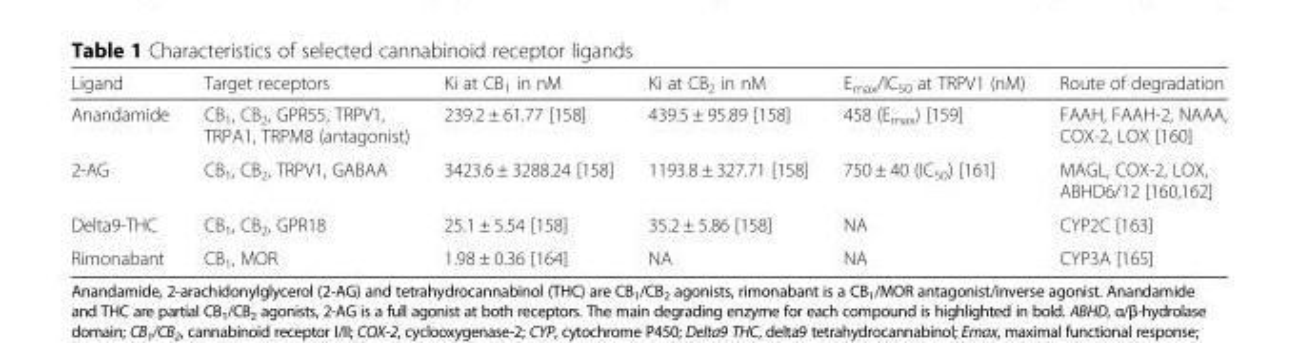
<table><thead><tr><td>Ligand</td><td>Target receptors</td><td>Ki at CB<sub>1</sub> in nM</td><td>Ki at CB<sub>2</sub> in nM</td><td>E<sub>max</sub>/IC<sub>50</sub> at TRPV1 (nM)</td><td>Route of degradation</td></tr></thead><tbody><tr><td>Anandamide</td><td>CB<sub>1</sub>, CB<sub>2</sub>, GPR55, TRPV1, TRPA1, TRPM8 (antagonist)</td><td>239.2 ± 61.77 [158]</td><td>439.5 ± 95.89 [158]</td><td>458 (E<sub>max</sub>) [159]</td><td>FAAH, FAAH-2, NAAA, COX-2, LOX [160]</td></tr><tr><td>2-AG</td><td>CB<sub>1</sub>, CB<sub>2</sub>, TRPV1, GABAA</td><td>3423.6 ± 3288.24 [158]</td><td>1193.8 ± 327.71 [158]</td><td>750 ± 40 (IC<sub>50</sub>) [161]</td><td>MAGL, COX-2, LOX, ABHD6/12 [160,162]</td></tr><tr><td>Delta9-THC</td><td>CB<sub>1</sub>, CB<sub>2</sub>, GPR18</td><td>25.1 ± 5.54 [158]</td><td>35.2 ± 5.86 [158]</td><td>NA</td><td>CYP2C [163]</td></tr><tr><td>Rimonabant</td><td>CB<sub>1</sub>, MOR</td><td>1.98 ± 0.36 [164]</td><td>NA</td><td>NA</td><td>CYP3A [165]</td></tr></tbody></table>